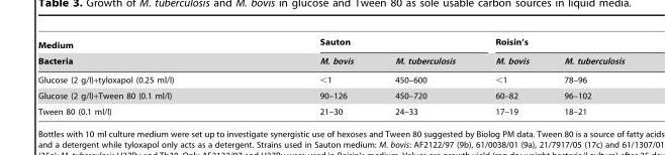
<table><thead><tr><td rowspan="2">Medium Bacteria</td><td colspan="2">Sauton</td><td colspan="2">Roisin’s</td></tr><tr><td>M. bovis</td><td>M. tuberculosis</td><td>M. bovis</td><td>M. tuberculosis</td></tr></thead><tbody><tr><td>Glucose (2 g/l)+tyloxapol (0.25 ml/l)</td><td>&lt;1</td><td>450–600</td><td>&lt;1</td><td>78–96</td></tr><tr><td>Glucose (2 g/l)+Tween 80 (0.1 ml/l)</td><td>90–126</td><td>450–720</td><td>60–82</td><td>96–102</td></tr><tr><td>Tween 80 (0.1 ml/l)</td><td>21–30</td><td>24–33</td><td>17–19</td><td>18–21</td></tr></tbody></table>